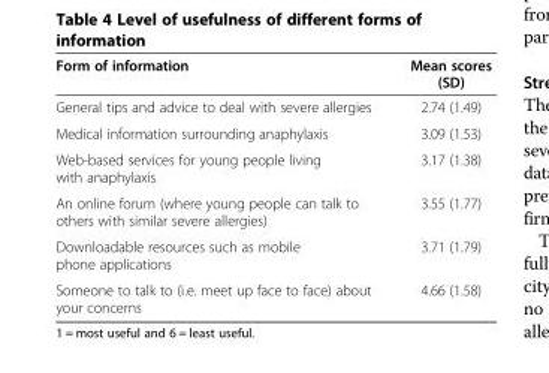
<table><thead><tr><td>Form of information</td><td>Mean scores (SD)</td></tr></thead><tbody><tr><td>General tips and advice to deal with severe allergies</td><td>2.74 (1.49)</td></tr><tr><td>Medical information surrounding anaphylaxis</td><td>3.09 (1.53)</td></tr><tr><td>Web-based services for young people living with anaphylaxis</td><td>3.17 (1.38)</td></tr><tr><td>An online forum (where young people can talk to others with similar severe allergies)</td><td>3.55 (1.77)</td></tr><tr><td>Downloadable resources such as mobile phone applications</td><td>3.71 (1.79)</td></tr><tr><td>Someone to talk to (i.e. meet up face to face) about your concerns</td><td>4.66 (1.58)</td></tr></tbody></table>